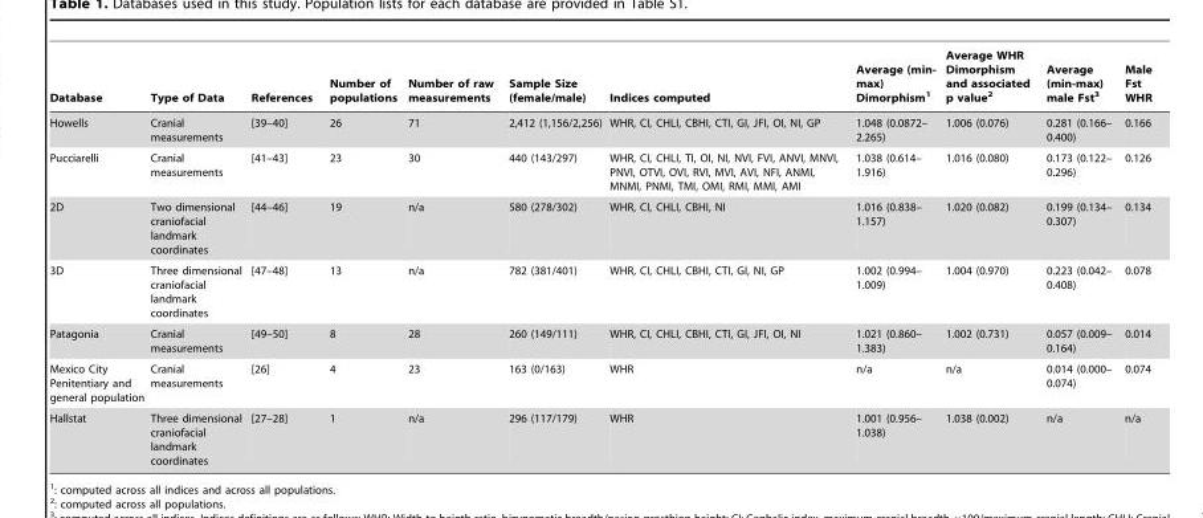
<table><thead><tr><td>Database</td><td>Type of Data</td><td>References</td><td>Number of populations</td><td>Number of raw measurements</td><td>Sample Size (female/male)</td><td>Indices computed</td><td>Average (min- max) Dimorphism<sup>1</sup></td><td>Average WHR Dimorphism and associated p value<sup>2</sup></td><td>Average (min-max) male Fst<sup>3</sup></td><td>Male Fst WHR</td></tr></thead><tbody><tr><td>Howells</td><td>Cranial measurements</td><td>[39–40]</td><td>26</td><td>71</td><td>2,412 (1,156/2,256)</td><td>WHR, CI, CHLI, CBHI, CTI, GI, JFI, OI, NI, GP</td><td>1.048 (0.0872– 2.265)</td><td>1.006 (0.076)</td><td>0.281 (0.166– 0.400)</td><td>0.166</td></tr><tr><td>Pucciarelli</td><td>Cranial measurements</td><td>[41–43]</td><td>23</td><td>30</td><td>440 (143/297)</td><td>WHR, CI, CHLI, TI, OI, NI, NVI, FVI, ANVI, MNVI, PNVI, OTVI, OVI, RVI, MVI, AVI, NFI, ANMI, MNMI, PNMI, TMI, OMI, RMI, MMI, AMI</td><td>1.038 (0.614– 1.916)</td><td>1.016 (0.080)</td><td>0.173 (0.122– 0.296)</td><td>0.126</td></tr><tr><td>2D</td><td>Two dimensional craniofacial landmark coordinates</td><td>[44–46]</td><td>19</td><td>n/a</td><td>580 (278/302)</td><td>WHR, CI, CHLI, CBHI, NI</td><td>1.016 (0.838– 1.157)</td><td>1.020 (0.082)</td><td>0.199 (0.134– 0.307)</td><td>0.134</td></tr><tr><td>3D</td><td>Three dimensional craniofacial landmark coordinates</td><td>[47–48]</td><td>13</td><td>n/a</td><td>782 (381/401)</td><td>WHR, CI, CHLI, CBHI, CTI, GI, NI, GP</td><td>1.002 (0.994– 1.009)</td><td>1.004 (0.970)</td><td>0.223 (0.042– 0.408)</td><td>0.078</td></tr><tr><td>Patagonia</td><td>Cranial measurements</td><td>[49–50]</td><td>8</td><td>28</td><td>260 (149/111)</td><td>WHR, CI, CHLI, CBHI, CTI, GI, JFI, OI, NI</td><td>1.021 (0.860– 1.383)</td><td>1.002 (0.731)</td><td>0.057 (0.009– 0.164)</td><td>0.014</td></tr><tr><td>Mexico City Penitentiary and general population</td><td>Cranial measurements</td><td>[26]</td><td>4</td><td>23</td><td>163 (0/163)</td><td>WHR</td><td>n/a</td><td>n/a</td><td>0.014 (0.000– 0.074)</td><td>0.074</td></tr><tr><td>Hallstat</td><td>Three dimensional craniofacial landmark coordinates</td><td>[27–28]</td><td>1</td><td>n/a</td><td>296 (117/179)</td><td>WHR</td><td>1.001 (0.956– 1.038)</td><td>1.038 (0.002)</td><td>n/a</td><td>n/a</td></tr></tbody></table>